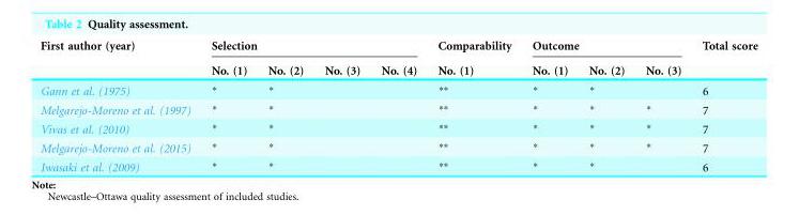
<table><thead><tr><td rowspan="2">First author (year)</td><td colspan="4">Selection</td><td rowspan="2">Comparability No. (1)</td><td colspan="3">Outcome</td><td rowspan="2">Total score</td></tr><tr><td>No. (1)</td><td>No. (2)</td><td>No. (3)</td><td>No. (4)</td><td>No. (1)</td><td>No. (2)</td><td>No. (3)</td></tr></thead><tbody><tr><td>Gann et al. (1975)</td><td>*</td><td>*</td><td></td><td></td><td>**</td><td>*</td><td>*</td><td></td><td>6</td></tr><tr><td>Melgarejo-Moreno et al. (1997)</td><td>*</td><td>*</td><td></td><td></td><td>**</td><td>*</td><td>*</td><td>*</td><td>7</td></tr><tr><td>Vivas et al. (2010)</td><td>*</td><td>*</td><td></td><td></td><td>**</td><td>*</td><td>*</td><td>*</td><td>7</td></tr><tr><td>Melgarejo-Moreno et al. (2015)</td><td>*</td><td>*</td><td></td><td></td><td>**</td><td>*</td><td>*</td><td>*</td><td>7</td></tr><tr><td>Iwasaki et al. (2009)</td><td>*</td><td>*</td><td></td><td></td><td>**</td><td>*</td><td>*</td><td></td><td>6</td></tr></tbody></table>